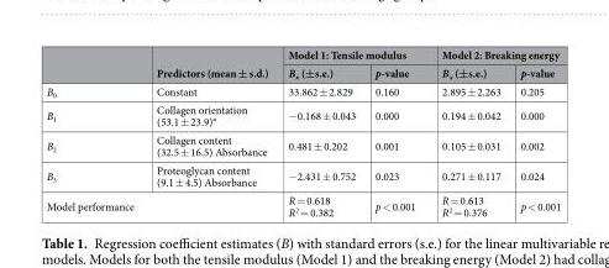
<table><thead><tr><td rowspan="2"></td><td rowspan="2">Predictors (mean ± s.d.)</td><td colspan="2">Model 1: Tensile modulus</td><td colspan="2">Model 2: Breaking energy</td></tr><tr><td>B<sub>x</sub> (±s.e.)</td><td>p-value</td><td>B<sub>x</sub> (±s.e.)</td><td>p-value</td></tr></thead><tbody><tr><td>B<sub>0</sub></td><td>Constant</td><td>33.862 ± 2.829</td><td>0.160</td><td>2.895 ± 2.263</td><td>0.205</td></tr><tr><td>B<sub>1</sub></td><td>Collagen orientation (53.1 ± 23.9)°</td><td>−0.168 ± 0.043</td><td>0.000</td><td>0.194 ± 0.042</td><td>0.000</td></tr><tr><td>B<sub>2</sub></td><td>Collagen content (32.5 ± 16.5) Absorbance</td><td>0.481 ± 0.202</td><td>0.001</td><td>0.105 ± 0.031</td><td>0.002</td></tr><tr><td>B<sub>3</sub></td><td>Proteoglycan content (9.1 ± 4.5) Absorbance</td><td>−2.431 ± 0.752</td><td>0.023</td><td>0.271 ± 0.117</td><td>0.024</td></tr><tr><td colspan="2">Model performance</td><td>R = 0.618 R<sup>2</sup> = 0.382</td><td>p &lt; 0.001</td><td>R = 0.613 R<sup>2</sup> = 0.376</td><td>p &lt; 0.001</td></tr></tbody></table>